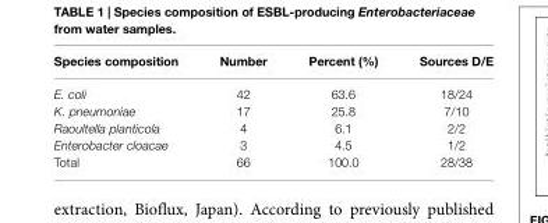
<table><thead><tr><td>Species composition</td><td>Number</td><td>Percent (%)</td><td>Sources D/E</td></tr></thead><tbody><tr><td>E. coli</td><td>42</td><td>63.6</td><td>18/24</td></tr><tr><td>K. pneumoniae</td><td>17</td><td>25.8</td><td>7/10</td></tr><tr><td>Raoultella planticola</td><td>4</td><td>6.1</td><td>2/2</td></tr><tr><td>Enterobacter cloacae</td><td>3</td><td>4.5</td><td>1/2</td></tr><tr><td>Total</td><td>66</td><td>100.0</td><td>28/38</td></tr></tbody></table>